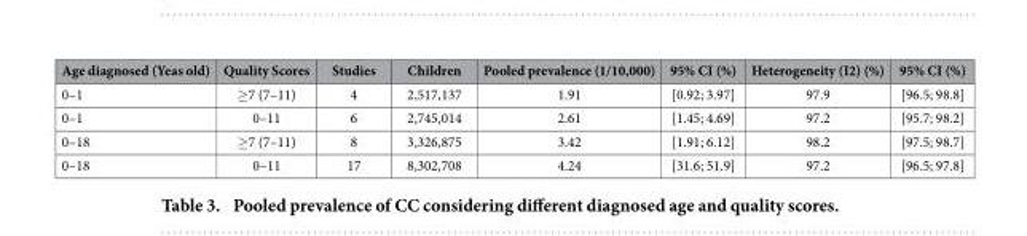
<table><thead><tr><td>Age diagnosed (Yeas old)</td><td>Quality Scores</td><td>Studies</td><td>Children</td><td>Pooled prevalence (1/10,000)</td><td>95% CI (%)</td><td>Heterogeneity (I2) (%)</td><td>95% CI (%)</td></tr></thead><tbody><tr><td>0–1</td><td>≥ 7 (7–11)</td><td>4</td><td>2,517,137</td><td>1.91</td><td>[0.92; 3.97]</td><td>97.9</td><td>[96.5; 98.8]</td></tr><tr><td>0–1</td><td>0–11</td><td>6</td><td>2,745,014</td><td>2.61</td><td>[1.45; 4.69]</td><td>97.2</td><td>[95.7; 98.2]</td></tr><tr><td>0–18</td><td>≥ 7 (7–11)</td><td>8</td><td>3,326,875</td><td>3.42</td><td>[1.91; 6.12]</td><td>98.2</td><td>[97.5; 98.7]</td></tr><tr><td>0–18</td><td>0–11</td><td>17</td><td>8,302,708</td><td>4.24</td><td>[31.6; 51.9]</td><td>97.2</td><td>[96.5; 97.8]</td></tr></tbody></table>